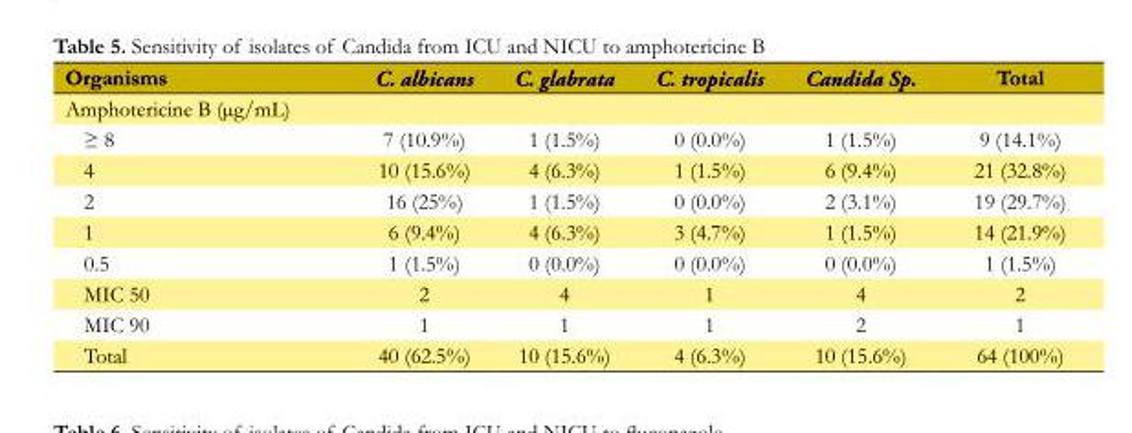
<table><tbody><tr><td>Organisms</td><td>C. albicans</td><td>C. glabrata</td><td>C. tropicalis</td><td>Candida Sp.</td><td>Total</td></tr><tr><td colspan="6">Amphotericine B (µg/mL)</td></tr><tr><td>≥ 8</td><td>7 (10.9%)</td><td>1 (1.5%)</td><td>0 (0.0%)</td><td>1 (1.5%)</td><td>9 (14.1%)</td></tr><tr><td>4</td><td>10 (15.6%)</td><td>4 (6.3%)</td><td>1 (1.5%)</td><td>6 (9.4%)</td><td>21 (32.8%)</td></tr><tr><td>2</td><td>16 (25%)</td><td>1 (1.5%)</td><td>0 (0.0%)</td><td>2 (3.1%)</td><td>19 (29.7%)</td></tr><tr><td>1</td><td>6 (9.4%)</td><td>4 (6.3%)</td><td>3 (4.7%)</td><td>1 (1.5%)</td><td>14 (21.9%)</td></tr><tr><td>0.5</td><td>1 (1.5%)</td><td>0 (0.0%)</td><td>0 (0.0%)</td><td>0 (0.0%)</td><td>1 (1.5%)</td></tr><tr><td>MIC 50</td><td>2</td><td>4</td><td>1</td><td>4</td><td>2</td></tr><tr><td>MIC 90</td><td>1</td><td>1</td><td>1</td><td>2</td><td>1</td></tr><tr><td>Total</td><td>40 (62.5%)</td><td>10 (15.6%)</td><td>4 (6.3%)</td><td>10 (15.6%)</td><td>64 (100%)</td></tr></tbody></table>